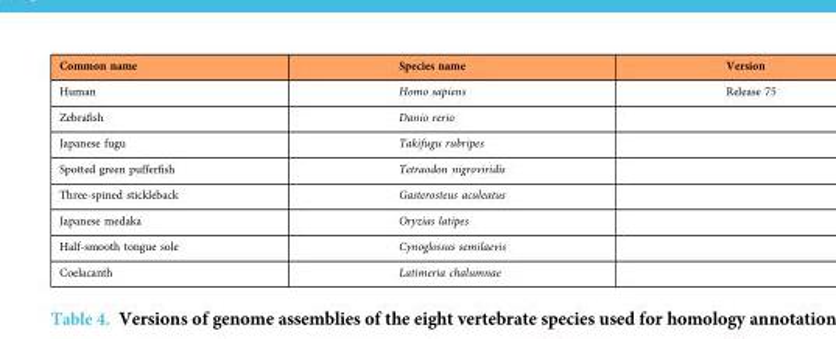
<table><thead><tr><td>Common name</td><td>Species name</td><td>Version</td></tr></thead><tbody><tr><td>Human</td><td>Homo sapiens</td><td>Release 75</td></tr><tr><td>Zebrafish</td><td>Danio rerio</td><td></td></tr><tr><td>Japanese fugu</td><td>Takifugu rubripes</td><td></td></tr><tr><td>Spotted green pufferfish</td><td>Tetraodon nigroviridis</td><td></td></tr><tr><td>Three-spined stickleback</td><td>Gasterosteus aculeatus</td><td></td></tr><tr><td>Japanese medaka</td><td>Oryzias latipes</td><td></td></tr><tr><td>Half-smooth tongue sole</td><td>Cynoglossus semilaevis</td><td></td></tr><tr><td>Coelacanth</td><td>Latimeria chalumnae</td><td></td></tr></tbody></table>